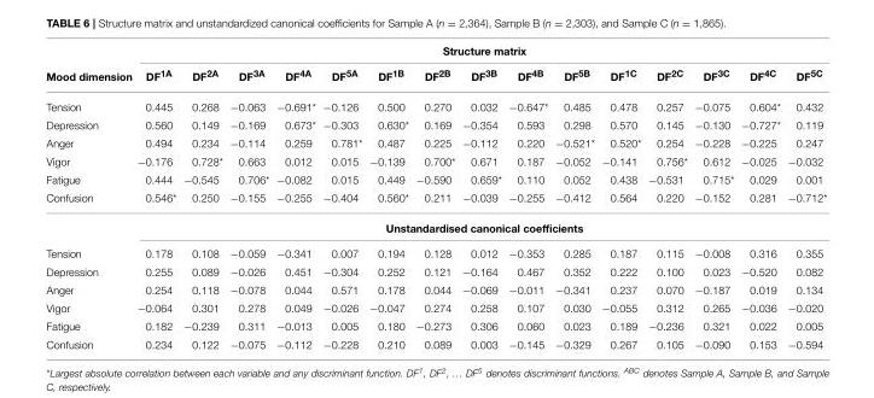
<table><thead><tr><td rowspan="2">Mood dimension</td><td colspan="15">Structure matrix</td></tr><tr><td>DF<sup>1A</sup></td><td>DF<sup>2A</sup></td><td>DF<sup>3A</sup></td><td>DF<sup>4A</sup></td><td>DF<sup>5A</sup></td><td>DF<sup>1B</sup></td><td>DF<sup>2B</sup></td><td>DF<sup>3B</sup></td><td>DF<sup>4B</sup></td><td>DF<sup>5B</sup></td><td>DF<sup>1C</sup></td><td>DF<sup>2C</sup></td><td>DF<sup>3C</sup></td><td>DF<sup>4C</sup></td><td>DF<sup>5C</sup></td></tr></thead><tbody><tr><td>Tension</td><td>0.445</td><td>0.268</td><td>−0.063</td><td>−0.691*</td><td>−0.126</td><td>0.500</td><td>0.270</td><td>0.032</td><td>−0.647*</td><td>0.485</td><td>0.478</td><td>0.257</td><td>−0.075</td><td>0.604*</td><td>0.432</td></tr><tr><td>Depression</td><td>0.560</td><td>0.149</td><td>−0.169</td><td>0.673*</td><td>−0.303</td><td>0.630*</td><td>0.169</td><td>−0.354</td><td>0.593</td><td>0.298</td><td>0.570</td><td>0.145</td><td>−0.130</td><td>−0.727*</td><td>0.119</td></tr><tr><td>Anger</td><td>0.494</td><td>0.234</td><td>−0.114</td><td>0.259</td><td>0.781*</td><td>0.487</td><td>0.225</td><td>−0.112</td><td>0.220</td><td>−0.521*</td><td>0.520*</td><td>0.254</td><td>−0.228</td><td>−0.225</td><td>0.247</td></tr><tr><td>Vigor</td><td>−0.176</td><td>0.728*</td><td>0.663</td><td>0.012</td><td>0.015</td><td>−0.139</td><td>0.700*</td><td>0.671</td><td>0.187</td><td>−0.052</td><td>−0.141</td><td>0.756*</td><td>0.612</td><td>−0.025</td><td>−0.032</td></tr><tr><td>Fatigue</td><td>0.444</td><td>−0.545</td><td>0.706*</td><td>−0.082</td><td>0.015</td><td>0.449</td><td>−0.590</td><td>0.659*</td><td>0.110</td><td>0.052</td><td>0.438</td><td>−0.531</td><td>0.715*</td><td>0.029</td><td>0.001</td></tr><tr><td rowspan="2">Confusion</td><td>0.546*</td><td>0.250</td><td>−0.155</td><td>−0.255</td><td>−0.404</td><td>0.560*</td><td>0.211</td><td>−0.039</td><td>−0.255</td><td>−0.412</td><td>0.564</td><td>0.220</td><td>−0.152</td><td>0.281</td><td>−0.712*</td></tr><tr><td colspan="15">Unstandardised canonical coefficients</td></tr><tr><td>Tension</td><td>0.178</td><td>0.108</td><td>−0.059</td><td>−0.341</td><td>0.007</td><td>0.194</td><td>0.128</td><td>0.012</td><td>−0.353</td><td>0.285</td><td>0.187</td><td>0.115</td><td>−0.008</td><td>0.316</td><td>0.355</td></tr><tr><td>Depression</td><td>0.255</td><td>0.089</td><td>−0.026</td><td>0.451</td><td>−0.304</td><td>0.252</td><td>0.121</td><td>−0.164</td><td>0.467</td><td>0.352</td><td>0.222</td><td>0.100</td><td>0.023</td><td>−0.520</td><td>0.082</td></tr><tr><td>Anger</td><td>0.254</td><td>0.118</td><td>−0.078</td><td>0.044</td><td>0.571</td><td>0.178</td><td>0.044</td><td>−0.069</td><td>−0.011</td><td>−0.341</td><td>0.237</td><td>0.070</td><td>−0.187</td><td>0.019</td><td>0.134</td></tr><tr><td>Vigor</td><td>−0.064</td><td>0.301</td><td>0.278</td><td>0.049</td><td>−0.026</td><td>−0.047</td><td>0.274</td><td>0.258</td><td>0.107</td><td>0.030</td><td>−0.055</td><td>0.312</td><td>0.265</td><td>−0.036</td><td>−0.020</td></tr><tr><td>Fatigue</td><td>0.182</td><td>−0.239</td><td>0.311</td><td>−0.013</td><td>0.005</td><td>0.180</td><td>−0.273</td><td>0.306</td><td>0.060</td><td>0.023</td><td>0.189</td><td>−0.236</td><td>0.321</td><td>0.022</td><td>0.005</td></tr><tr><td>Confusion</td><td>0.234</td><td>0.122</td><td>−0.075</td><td>−0.112</td><td>−0.228</td><td>0.210</td><td>0.089</td><td>0.003</td><td>−0.145</td><td>−0.329</td><td>0.267</td><td>0.105</td><td>−0.090</td><td>0.153</td><td>−0.594</td></tr></tbody></table>